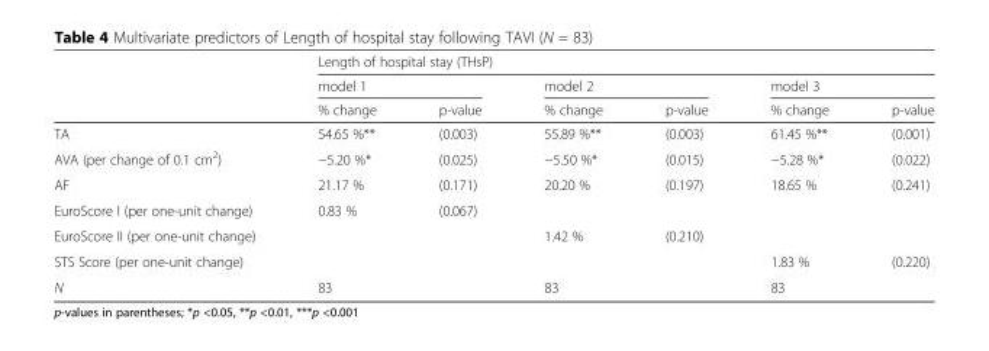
<table><thead><tr><td rowspan="3"></td><td colspan="6">Length of hospital stay (THsP)</td></tr><tr><td colspan="2">model 1</td><td colspan="2">model 2</td><td colspan="2">model 3</td></tr><tr><td>% change</td><td>p-value</td><td>% change</td><td>p-value</td><td>% change</td><td>p-value</td></tr></thead><tbody><tr><td>TA</td><td>54.65 %**</td><td>(0.003)</td><td>55.89 %**</td><td>(0.003)</td><td>61.45 %**</td><td>(0.001)</td></tr><tr><td>AVA (per change of 0.1 cm<sup>2</sup>)</td><td>−5.20 %*</td><td>(0.025)</td><td>−5.50 %*</td><td>(0.015)</td><td>−5.28 %*</td><td>(0.022)</td></tr><tr><td>AF</td><td>21.17 %</td><td>(0.171)</td><td>20.20 %</td><td>(0.197)</td><td>18.65 %</td><td>(0.241)</td></tr><tr><td>EuroScore I (per one-unit change)</td><td>0.83 %</td><td>(0.067)</td><td></td><td></td><td></td><td></td></tr><tr><td>EuroScore II (per one-unit change)</td><td></td><td></td><td>1.42 %</td><td>(0.210)</td><td></td><td></td></tr><tr><td>STS Score (per one-unit change)</td><td></td><td></td><td></td><td></td><td>1.83 %</td><td>(0.220)</td></tr><tr><td>N</td><td>83</td><td></td><td>83</td><td></td><td>83</td><td></td></tr></tbody></table>